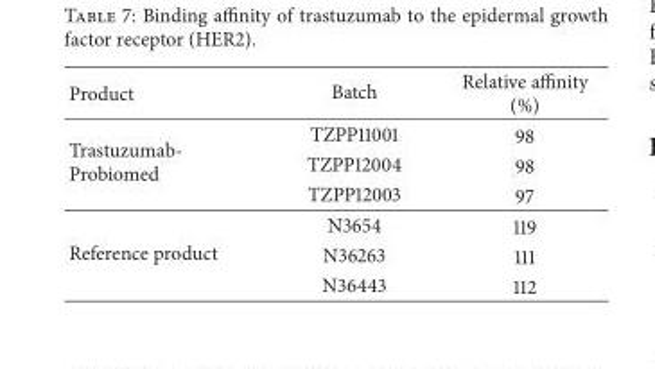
<table><thead><tr><td>Product</td><td>Batch</td><td>Relative affinity (%)</td></tr></thead><tbody><tr><td rowspan="3">Trastuzumab- Probiomed</td><td>TZPP11001</td><td>98</td></tr><tr><td>TZPP12004</td><td>98</td></tr><tr><td>TZPP12003</td><td>97</td></tr><tr><td rowspan="3">Reference product</td><td>N3654</td><td>119</td></tr><tr><td>N36263</td><td>111</td></tr><tr><td>N36443</td><td>112</td></tr></tbody></table>